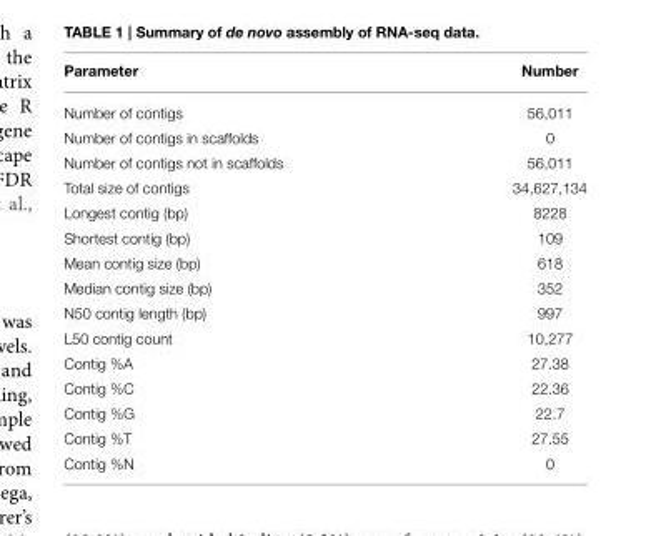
<table><thead><tr><td>Parameter</td><td>Number</td></tr></thead><tbody><tr><td>Number of contigs</td><td>56,011</td></tr><tr><td>Number of contigs in scaffolds</td><td>0</td></tr><tr><td>Number of contigs not in scaffolds</td><td>56,011</td></tr><tr><td>Total size of contigs</td><td>34,627,134</td></tr><tr><td>Longest contig (bp)</td><td>8228</td></tr><tr><td>Shortest contig (bp)</td><td>109</td></tr><tr><td>Mean contig size (bp)</td><td>618</td></tr><tr><td>Median contig size (bp)</td><td>352</td></tr><tr><td>N50 contig length (bp)</td><td>997</td></tr><tr><td>L50 contig count</td><td>10,277</td></tr><tr><td>Contig %A</td><td>27.38</td></tr><tr><td>Contig %C</td><td>22.36</td></tr><tr><td>Contig %G</td><td>22.7</td></tr><tr><td>Contig %T</td><td>27.55</td></tr><tr><td>Contig %N</td><td>0</td></tr></tbody></table>